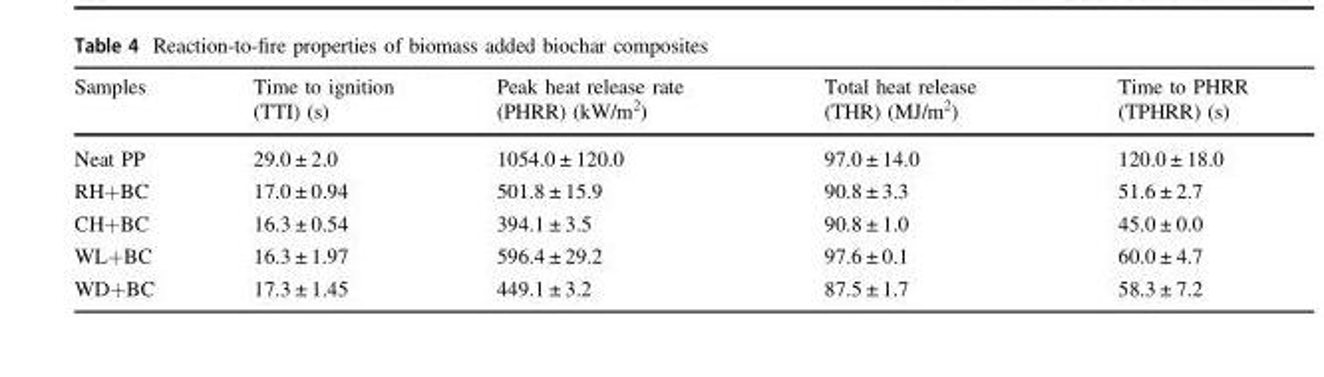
<table><thead><tr><td>Samples</td><td>Time to ignition (TTI) (s)</td><td>Peak heat release rate (PHRR) (kW/m<sup>2</sup>)</td><td>Total heat release (THR) (MJ/m<sup>2</sup>)</td><td>Time to PHRR (TPHRR) (s)</td></tr></thead><tbody><tr><td>Neat PP</td><td>29.0 ± 2.0</td><td>1054.0 ± 120.0</td><td>97.0 ± 14.0</td><td>120.0 ± 18.0</td></tr><tr><td>RH+BC</td><td>17.0 ± 0.94</td><td>501.8 ± 15.9</td><td>90.8 ± 3.3</td><td>51.6 ± 2.7</td></tr><tr><td>CH+BC</td><td>16.3 ± 0.54</td><td>394.1 ± 3.5</td><td>90.8 ± 1.0</td><td>45.0 ± 0.0</td></tr><tr><td>WL+BC</td><td>16.3 ± 1.97</td><td>596.4 ± 29.2</td><td>97.6 ± 0.1</td><td>60.0 ± 4.7</td></tr><tr><td>WD+BC</td><td>17.3 ± 1.45</td><td>449.1 ± 3.2</td><td>87.5 ± 1.7</td><td>58.3 ± 7.2</td></tr></tbody></table>